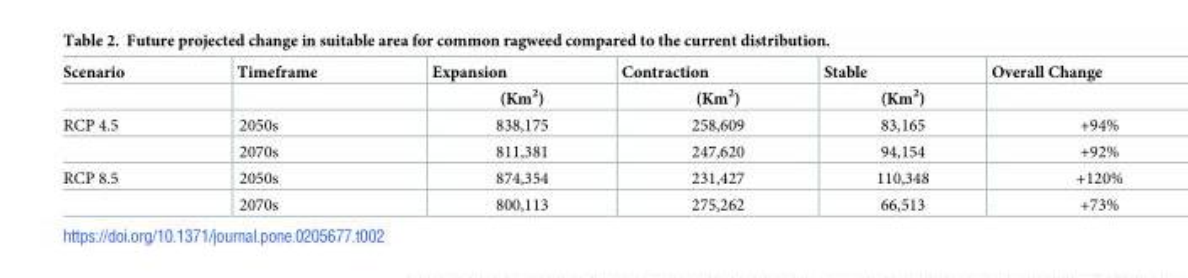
<table><thead><tr><td rowspan="2">Scenario</td><td rowspan="2">Timeframe</td><td rowspan="2">Expansion (Km<sup>2</sup>)</td><td rowspan="2">Contraction (Km<sup>2</sup>)</td><td rowspan="2">Stable (Km<sup>2</sup>)</td><td rowspan="2">Overall Change</td></tr><tr></tr></thead><tbody><tr><td rowspan="2">RCP 4.5</td><td>2050s</td><td>838,175</td><td>258,609</td><td>83,165</td><td>+94%</td></tr><tr><td>2070s</td><td>811,381</td><td>247,620</td><td>94,154</td><td>+92%</td></tr><tr><td rowspan="2">RCP 8.5</td><td>2050s</td><td>874,354</td><td>231,427</td><td>110,348</td><td>+120%</td></tr><tr><td>2070s</td><td>800,113</td><td>275,262</td><td>66,513</td><td>+73%</td></tr></tbody></table>